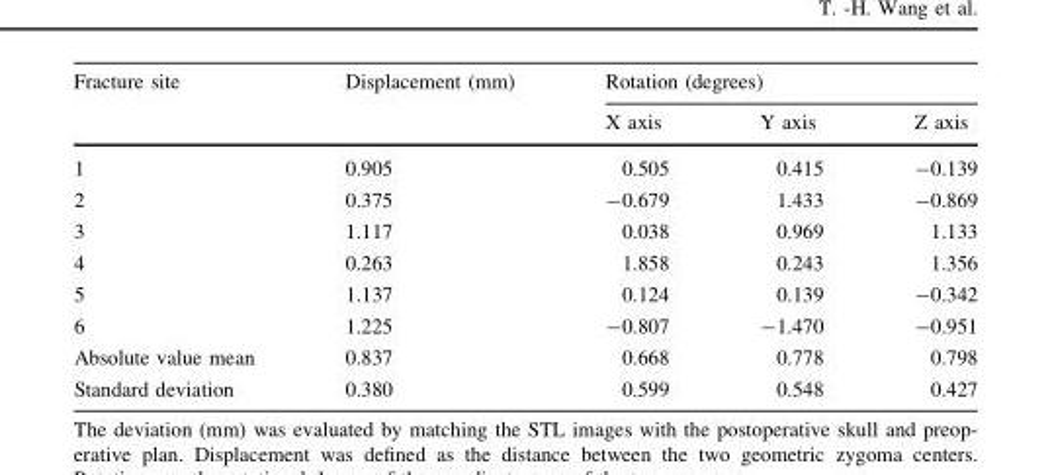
<table><thead><tr><td rowspan="2">Fracture site</td><td rowspan="2">Displacement (mm)</td><td colspan="3">Rotation (degrees)</td></tr><tr><td>X axis</td><td>Y axis</td><td>Z axis</td></tr></thead><tbody><tr><td>1</td><td>0.905</td><td>0.505</td><td>0.415</td><td>-0.139</td></tr><tr><td>2</td><td>0.375</td><td>-0.679</td><td>1.433</td><td>-0.869</td></tr><tr><td>3</td><td>1.117</td><td>0.038</td><td>0.969</td><td>1.133</td></tr><tr><td>4</td><td>0.263</td><td>1.858</td><td>0.243</td><td>1.356</td></tr><tr><td>5</td><td>1.137</td><td>0.124</td><td>0.139</td><td>-0.342</td></tr><tr><td>6</td><td>1.225</td><td>-0.807</td><td>-1.470</td><td>-0.951</td></tr><tr><td>Absolute value mean</td><td>0.837</td><td>0.668</td><td>0.778</td><td>0.798</td></tr><tr><td>Standard deviation</td><td>0.380</td><td>0.599</td><td>0.548</td><td>0.427</td></tr></tbody></table>